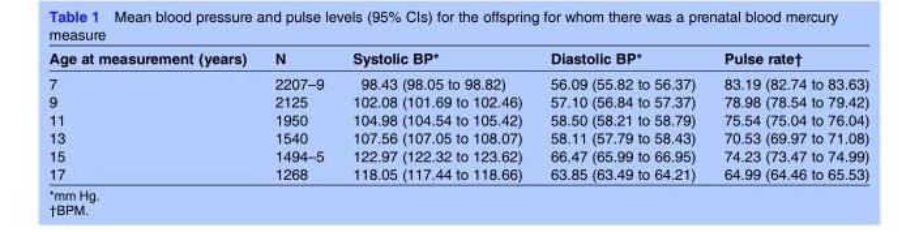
<table><thead><tr><td>Age at measurement (years)</td><td>N</td><td>Systolic BP*</td><td>Diastolic BP*</td><td>Pulse rate†</td></tr></thead><tbody><tr><td>7</td><td>2207–9</td><td>98.43 (98.05 to 98.82)</td><td>56.09 (55.82 to 56.37)</td><td>83.19 (82.74 to 83.63)</td></tr><tr><td>9</td><td>2125</td><td>102.08 (101.69 to 102.46)</td><td>57.10 (56.84 to 57.37)</td><td>78.98 (78.54 to 79.42)</td></tr><tr><td>11</td><td>1950</td><td>104.98 (104.54 to 105.42)</td><td>58.50 (58.21 to 58.79)</td><td>75.54 (75.04 to 76.04)</td></tr><tr><td>13</td><td>1540</td><td>107.56 (107.05 to 108.07)</td><td>58.11 (57.79 to 58.43)</td><td>70.53 (69.97 to 71.08)</td></tr><tr><td>15</td><td>1494–5</td><td>122.97 (122.32 to 123.62)</td><td>66.47 (65.99 to 66.95)</td><td>74.23 (73.47 to 74.99)</td></tr><tr><td>17</td><td>1268</td><td>118.05 (117.44 to 118.66)</td><td>63.85 (63.49 to 64.21)</td><td>64.99 (64.46 to 65.53)</td></tr></tbody></table>